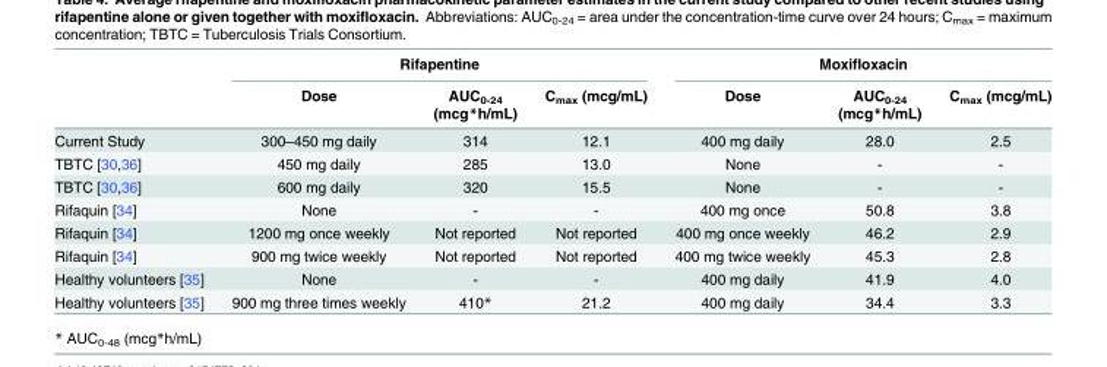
<table><thead><tr><td rowspan="2"></td><td colspan="3">Rifapentine</td><td colspan="3">Moxifloxacin</td></tr><tr><td>Dose</td><td>AUC<sub>0-24</sub> (mcg*h/mL)</td><td>C<sub>max</sub> (mcg/mL)</td><td>Dose</td><td>AUC<sub>0-24</sub> (mcg*h/mL)</td><td>C<sub>max</sub> (mcg/mL)</td></tr></thead><tbody><tr><td>Current Study</td><td>300–450 mg daily</td><td>314</td><td>12.1</td><td>400 mg daily</td><td>28.0</td><td>2.5</td></tr><tr><td>TBTC [30,36]</td><td>450 mg daily</td><td>285</td><td>13.0</td><td>None</td><td>-</td><td>-</td></tr><tr><td>TBTC [30,36]</td><td>600 mg daily</td><td>320</td><td>15.5</td><td>None</td><td>-</td><td>-</td></tr><tr><td>Rifaquin [34]</td><td>None</td><td>-</td><td>-</td><td>400 mg once</td><td>50.8</td><td>3.8</td></tr><tr><td>Rifaquin [34]</td><td>1200 mg once weekly</td><td>Not reported</td><td>Not reported</td><td>400 mg once weekly</td><td>46.2</td><td>2.9</td></tr><tr><td>Rifaquin [34]</td><td>900 mg twice weekly</td><td>Not reported</td><td>Not reported</td><td>400 mg twice weekly</td><td>45.3</td><td>2.8</td></tr><tr><td>Healthy volunteers [35]</td><td>None</td><td>-</td><td>-</td><td>400 mg daily</td><td>41.9</td><td>4.0</td></tr><tr><td>Healthy volunteers [35]</td><td>900 mg three times weekly</td><td>410*</td><td>21.2</td><td>400 mg daily</td><td>34.4</td><td>3.3</td></tr></tbody></table>